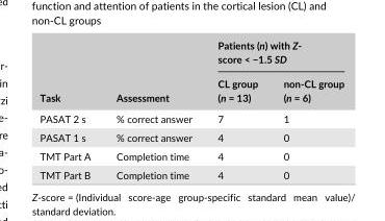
<table><thead><tr><td rowspan="2">Task</td><td rowspan="2">Assessment</td><td colspan="2">Patients (n) with Z- score &lt; −1.5 SD</td></tr><tr><td>CL group (n = 13)</td><td>non- CL group (n = 6)</td></tr></thead><tbody><tr><td>PASAT 2 s</td><td>% correct answer</td><td>7</td><td>1</td></tr><tr><td>PASAT 1 s</td><td>% correct answer</td><td>4</td><td>0</td></tr><tr><td>TMT Part A</td><td>Completion time</td><td>4</td><td>0</td></tr><tr><td>TMT Part B</td><td>Completion time</td><td>4</td><td>0</td></tr></tbody></table>